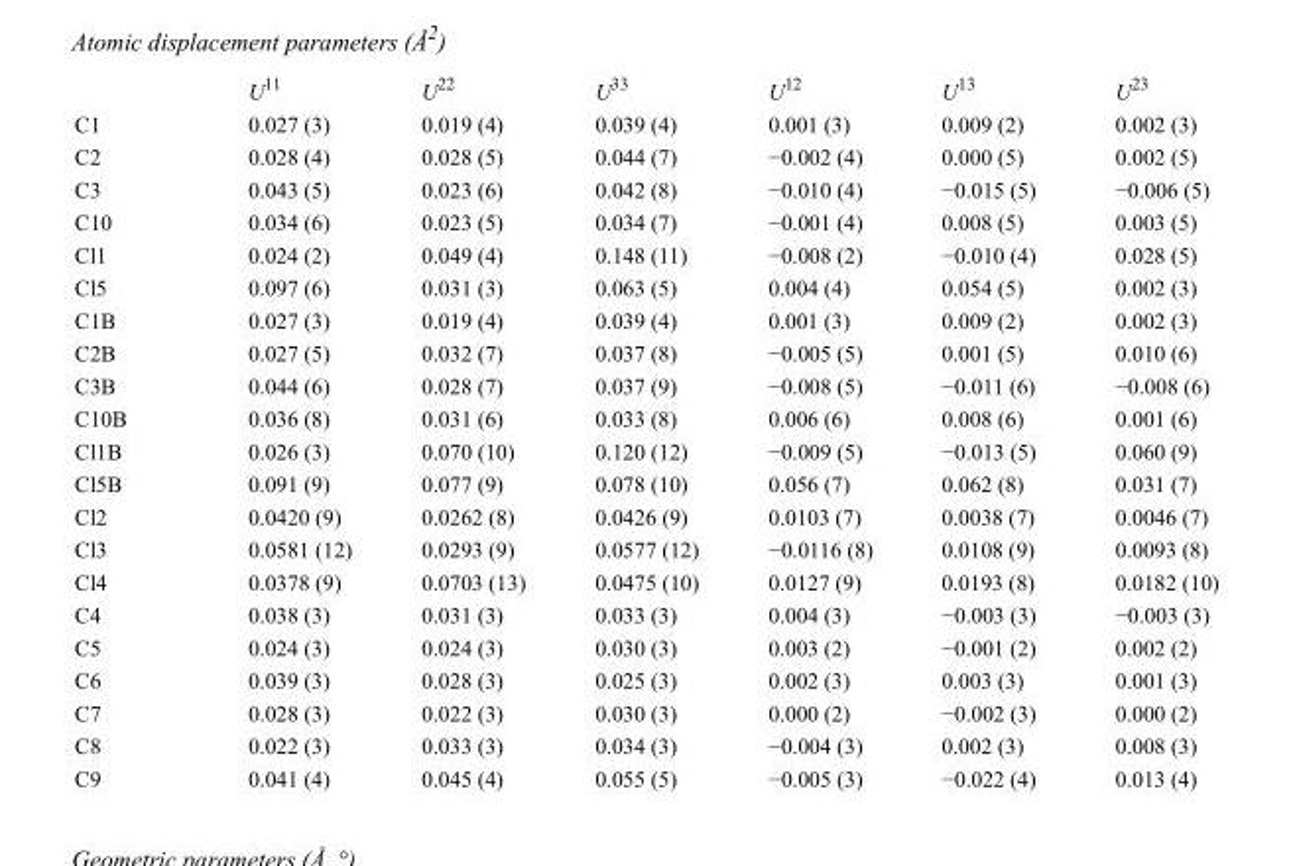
<table><thead><tr><td></td><td>U<sup>11</sup></td><td>U<sup>22</sup></td><td>U<sup>33</sup></td><td>U<sup>12</sup></td><td>U<sup>13</sup></td><td>U<sup>23</sup></td></tr></thead><tbody><tr><td>C1</td><td>0.027 (3)</td><td>0.019 (4)</td><td>0.039 (4)</td><td>0.001 (3)</td><td>0.009 (2)</td><td>0.002 (3)</td></tr><tr><td>C2</td><td>0.028 (4)</td><td>0.028 (5)</td><td>0.044 (7)</td><td>−0.002 (4)</td><td>0.000 (5)</td><td>0.002 (5)</td></tr><tr><td>C3</td><td>0.043 (5)</td><td>0.023 (6)</td><td>0.042 (8)</td><td>−0.010 (4)</td><td>−0.015 (5)</td><td>−0.006 (5)</td></tr><tr><td>C10</td><td>0.034 (6)</td><td>0.023 (5)</td><td>0.034 (7)</td><td>−0.001 (4)</td><td>0.008 (5)</td><td>0.003 (5)</td></tr><tr><td>Cl1</td><td>0.024 (2)</td><td>0.049 (4)</td><td>0.148 (11)</td><td>−0.008 (2)</td><td>−0.010 (4)</td><td>0.028 (5)</td></tr><tr><td>Cl5</td><td>0.097 (6)</td><td>0.031 (3)</td><td>0.063 (5)</td><td>0.004 (4)</td><td>0.054 (5)</td><td>0.002 (3)</td></tr><tr><td>C1B</td><td>0.027 (3)</td><td>0.019 (4)</td><td>0.039 (4)</td><td>0.001 (3)</td><td>0.009 (2)</td><td>0.002 (3)</td></tr><tr><td>C2B</td><td>0.027 (5)</td><td>0.032 (7)</td><td>0.037 (8)</td><td>−0.005 (5)</td><td>0.001 (5)</td><td>0.010 (6)</td></tr><tr><td>C3B</td><td>0.044 (6)</td><td>0.028 (7)</td><td>0.037 (9)</td><td>−0.008 (5)</td><td>−0.011 (6)</td><td>−0.008 (6)</td></tr><tr><td>C10B</td><td>0.036 (8)</td><td>0.031 (6)</td><td>0.033 (8)</td><td>0.006 (6)</td><td>0.008 (6)</td><td>0.001 (6)</td></tr><tr><td>Cl1B</td><td>0.026 (3)</td><td>0.070 (10)</td><td>0.120 (12)</td><td>−0.009 (5)</td><td>−0.013 (5)</td><td>0.060 (9)</td></tr><tr><td>Cl5B</td><td>0.091 (9)</td><td>0.077 (9)</td><td>0.078 (10)</td><td>0.056 (7)</td><td>0.062 (8)</td><td>0.031 (7)</td></tr><tr><td>Cl2</td><td>0.0420 (9)</td><td>0.0262 (8)</td><td>0.0426 (9)</td><td>0.0103 (7)</td><td>0.0038 (7)</td><td>0.0046 (7)</td></tr><tr><td>Cl3</td><td>0.0581 (12)</td><td>0.0293 (9)</td><td>0.0577 (12)</td><td>−0.0116 (8)</td><td>0.0108 (9)</td><td>0.0093 (8)</td></tr><tr><td>Cl4</td><td>0.0378 (9)</td><td>0.0703 (13)</td><td>0.0475 (10)</td><td>0.0127 (9)</td><td>0.0193 (8)</td><td>0.0182 (10)</td></tr><tr><td>C4</td><td>0.038 (3)</td><td>0.031 (3)</td><td>0.033 (3)</td><td>0.004 (3)</td><td>−0.003 (3)</td><td>−0.003 (3)</td></tr><tr><td>C5</td><td>0.024 (3)</td><td>0.024 (3)</td><td>0.030 (3)</td><td>0.003 (2)</td><td>−0.001 (2)</td><td>0.002 (2)</td></tr><tr><td>C6</td><td>0.039 (3)</td><td>0.028 (3)</td><td>0.025 (3)</td><td>0.002 (3)</td><td>0.003 (3)</td><td>0.001 (3)</td></tr><tr><td>C7</td><td>0.028 (3)</td><td>0.022 (3)</td><td>0.030 (3)</td><td>0.000 (2)</td><td>−0.002 (3)</td><td>0.000 (2)</td></tr><tr><td>C8</td><td>0.022 (3)</td><td>0.033 (3)</td><td>0.034 (3)</td><td>−0.004 (3)</td><td>0.002 (3)</td><td>0.008 (3)</td></tr><tr><td>C9</td><td>0.041 (4)</td><td>0.045 (4)</td><td>0.055 (5)</td><td>−0.005 (3)</td><td>−0.022 (4)</td><td>0.013 (4)</td></tr></tbody></table>